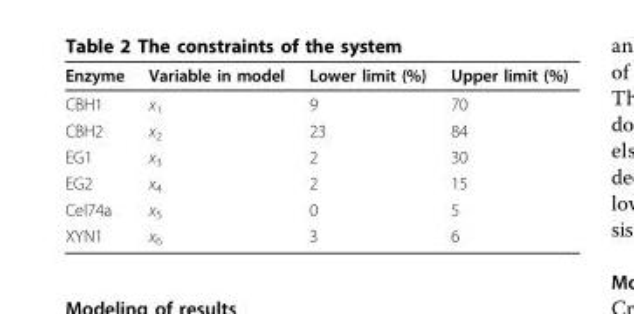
<table><thead><tr><td>Enzyme</td><td>Variable in model</td><td>Lower limit (%)</td><td>Upper limit (%)</td></tr></thead><tbody><tr><td>CBH1</td><td>x<sub>1</sub></td><td>9</td><td>70</td></tr><tr><td>CBH2</td><td>x<sub>2</sub></td><td>23</td><td>84</td></tr><tr><td>EG1</td><td>x<sub>3</sub></td><td>2</td><td>30</td></tr><tr><td>EG2</td><td>x<sub>4</sub></td><td>2</td><td>15</td></tr><tr><td>Cel74a</td><td>x<sub>5</sub></td><td>0</td><td>5</td></tr><tr><td>XYN1</td><td>x<sub>6</sub></td><td>3</td><td>6</td></tr></tbody></table>